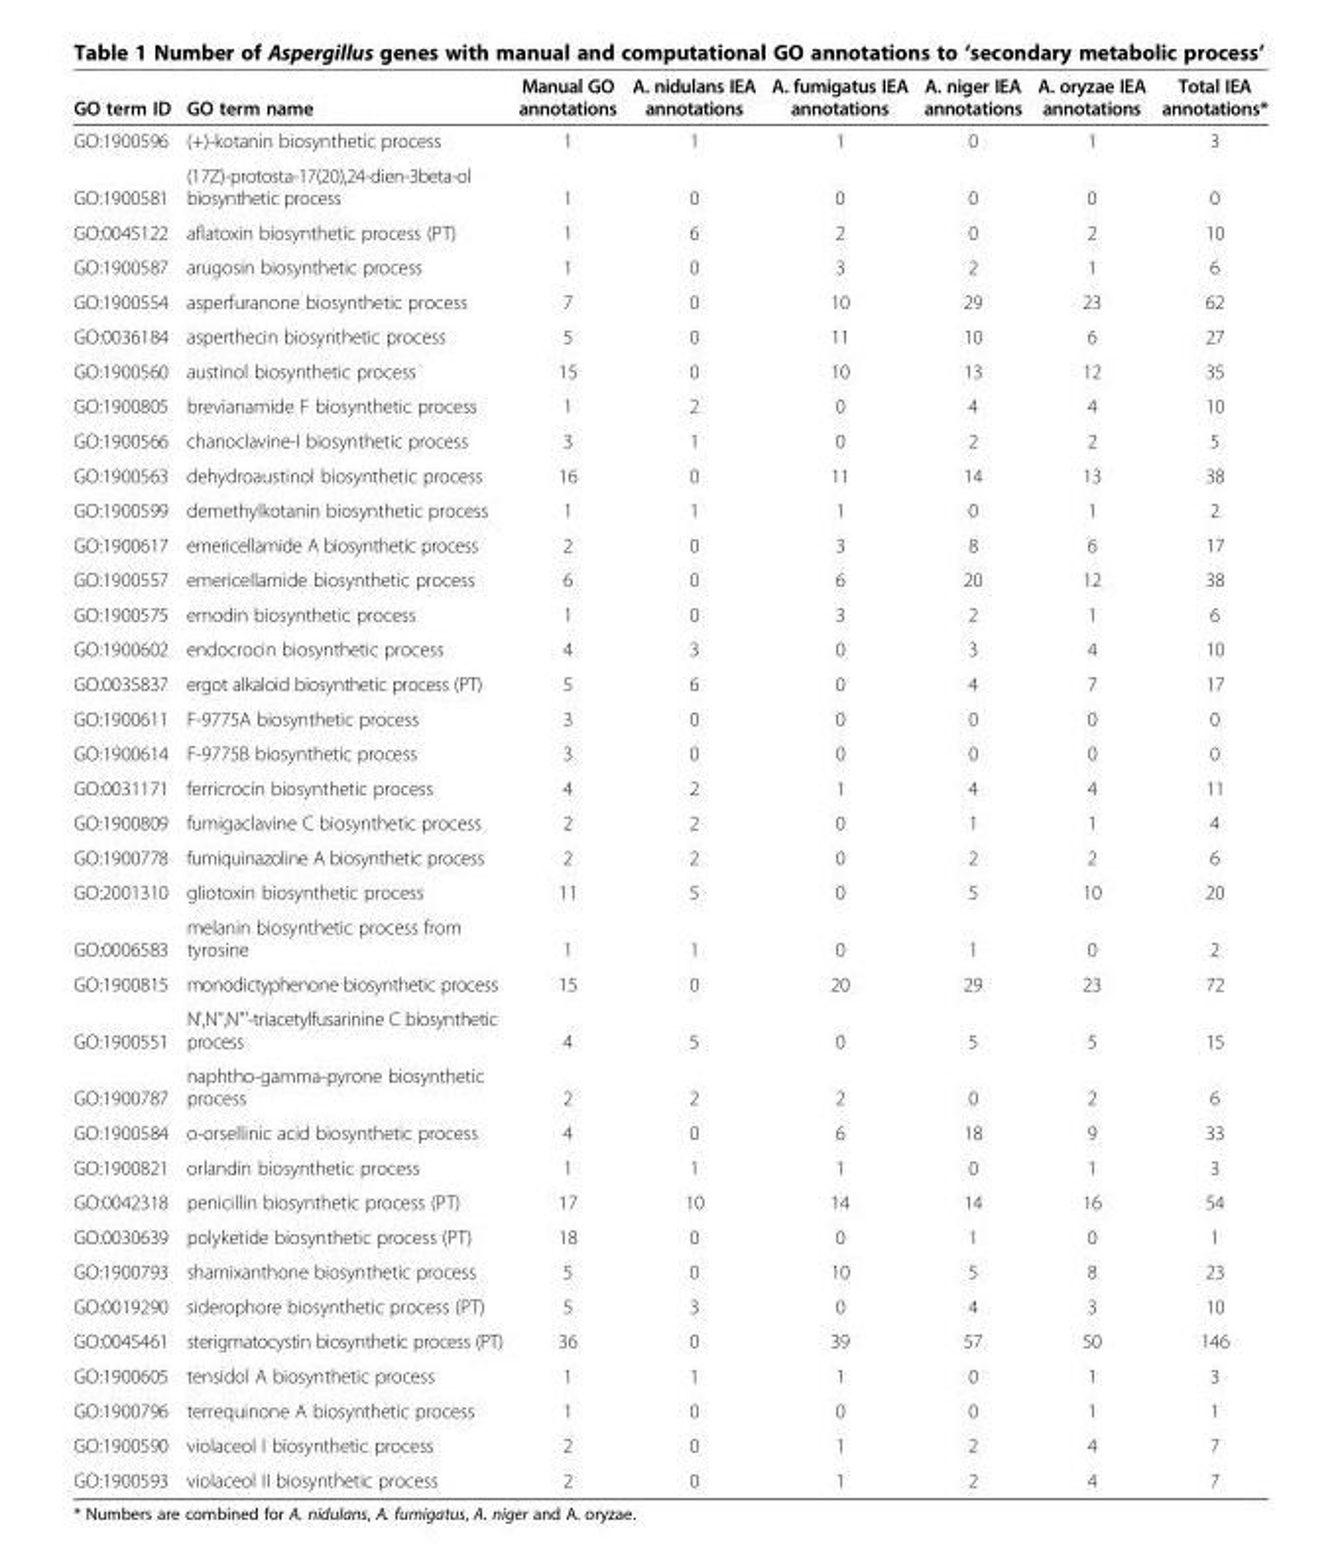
<table><thead><tr><td>GO term ID</td><td>GO term name</td><td>Manual GO annotations</td><td>A. nidulans IEA annotations</td><td>A. fumigatus IEA annotations</td><td>A. niger IEA annotations</td><td>A. oryzae IEA annotations</td><td>Total IEA annotations*</td></tr></thead><tbody><tr><td>GO:1900596</td><td>(+)-kotanin biosynthetic process</td><td>1</td><td>1</td><td>1</td><td>0</td><td>1</td><td>3</td></tr><tr><td>GO:1900581</td><td>(17Z)-protosta-17(20),24-dien-3beta-ol biosynthetic process</td><td>1</td><td>0</td><td>0</td><td>0</td><td>0</td><td>0</td></tr><tr><td>GO:0045122</td><td>aflatoxin biosynthetic process (PT)</td><td>1</td><td>6</td><td>2</td><td>0</td><td>2</td><td>10</td></tr><tr><td>GO:1900587</td><td>arugosin biosynthetic process</td><td>1</td><td>0</td><td>3</td><td>2</td><td>1</td><td>6</td></tr><tr><td>GO:1900554</td><td>asperfuranone biosynthetic process</td><td>7</td><td>0</td><td>10</td><td>29</td><td>23</td><td>62</td></tr><tr><td>GO:0036184</td><td>asperthecin biosynthetic process</td><td>5</td><td>0</td><td>11</td><td>10</td><td>6</td><td>27</td></tr><tr><td>GO:1900560</td><td>austinol biosynthetic process</td><td>15</td><td>0</td><td>10</td><td>13</td><td>12</td><td>35</td></tr><tr><td>GO:1900805</td><td>brevianamide F biosynthetic process</td><td>1</td><td>2</td><td>0</td><td>4</td><td>4</td><td>10</td></tr><tr><td>GO:1900566</td><td>chanoclavine-I biosynthetic process</td><td>3</td><td>1</td><td>0</td><td>2</td><td>2</td><td>5</td></tr><tr><td>GO:1900563</td><td>dehydroaustinol biosynthetic process</td><td>16</td><td>0</td><td>11</td><td>14</td><td>13</td><td>38</td></tr><tr><td>GO:1900599</td><td>demethylkotanin biosynthetic process</td><td>1</td><td>1</td><td>1</td><td>0</td><td>1</td><td>2</td></tr><tr><td>GO:1900617</td><td>emericellamide A biosynthetic process</td><td>2</td><td>0</td><td>3</td><td>8</td><td>6</td><td>17</td></tr><tr><td>GO:1900557</td><td>emericellamide biosynthetic process</td><td>6</td><td>0</td><td>6</td><td>20</td><td>12</td><td>38</td></tr><tr><td>GO:1900575</td><td>emodin biosynthetic process</td><td>1</td><td>0</td><td>3</td><td>2</td><td>1</td><td>6</td></tr><tr><td>GO:1900602</td><td>endocrocin biosynthetic process</td><td>4</td><td>3</td><td>0</td><td>3</td><td>4</td><td>10</td></tr><tr><td>GO:0035837</td><td>ergot alkaloid biosynthetic process (PT)</td><td>5</td><td>6</td><td>0</td><td>4</td><td>7</td><td>17</td></tr><tr><td>GO:1900611</td><td>F-9775A biosynthetic process</td><td>3</td><td>0</td><td>0</td><td>0</td><td>0</td><td>0</td></tr><tr><td>GO:1900614</td><td>F-9775B biosynthetic process</td><td>3</td><td>0</td><td>0</td><td>0</td><td>0</td><td>0</td></tr><tr><td>GO:0031171</td><td>ferricrocin biosynthetic process</td><td>4</td><td>2</td><td>1</td><td>4</td><td>4</td><td>11</td></tr><tr><td>GO:1900809</td><td>fumigaclavine C biosynthetic process</td><td>2</td><td>2</td><td>0</td><td>1</td><td>1</td><td>4</td></tr><tr><td>GO:1900778</td><td>fumiquinazoline A biosynthetic process</td><td>2</td><td>2</td><td>0</td><td>2</td><td>2</td><td>6</td></tr><tr><td>GO:2001310</td><td>gliotoxin biosynthetic process</td><td>11</td><td>5</td><td>0</td><td>5</td><td>10</td><td>20</td></tr><tr><td>GO:0006583</td><td>melanin biosynthetic process from tyrosine</td><td>1</td><td>1</td><td>0</td><td>1</td><td>0</td><td>2</td></tr><tr><td>GO:1900815</td><td>monodictyphenone biosynthetic process</td><td>15</td><td>0</td><td>20</td><td>29</td><td>23</td><td>72</td></tr><tr><td>GO:1900551</td><td>N&#x27;,N&#x27;&#x27;,N&#x27;&#x27;&#x27;-triacetylfusarinine C biosynthetic process</td><td>4</td><td>5</td><td>0</td><td>5</td><td>5</td><td>15</td></tr><tr><td>GO:1900787</td><td>naphtho-gamma-pyrone biosynthetic process</td><td>2</td><td>2</td><td>2</td><td>0</td><td>2</td><td>6</td></tr><tr><td>GO:1900584</td><td>o-orsellinic acid biosynthetic process</td><td>4</td><td>0</td><td>6</td><td>18</td><td>9</td><td>33</td></tr><tr><td>GO:1900821</td><td>orlandin biosynthetic process</td><td>1</td><td>1</td><td>1</td><td>0</td><td>1</td><td>3</td></tr><tr><td>GO:0042318</td><td>penicillin biosynthetic process (PT)</td><td>17</td><td>10</td><td>14</td><td>14</td><td>16</td><td>54</td></tr><tr><td>GO:0030639</td><td>polyketide biosynthetic process (PT)</td><td>18</td><td>0</td><td>0</td><td>1</td><td>0</td><td>1</td></tr><tr><td>GO:1900793</td><td>shamixanthone biosynthetic process</td><td>5</td><td>0</td><td>10</td><td>5</td><td>8</td><td>23</td></tr><tr><td>GO:0019290</td><td>siderophore biosynthetic process (PT)</td><td>5</td><td>3</td><td>0</td><td>4</td><td>3</td><td>10</td></tr><tr><td>GO:0045461</td><td>sterigmatocystin biosynthetic process (PT)</td><td>36</td><td>0</td><td>39</td><td>57</td><td>50</td><td>146</td></tr><tr><td>GO:1900605</td><td>tensidol A biosynthetic process</td><td>1</td><td>1</td><td>1</td><td>0</td><td>1</td><td>3</td></tr><tr><td>GO:1900796</td><td>terrequinone A biosynthetic process</td><td>1</td><td>0</td><td>0</td><td>0</td><td>1</td><td>1</td></tr><tr><td>GO:1900590</td><td>violaceol I biosynthetic process</td><td>2</td><td>0</td><td>1</td><td>2</td><td>4</td><td>7</td></tr><tr><td>GO:1900593</td><td>violaceol II biosynthetic process</td><td>2</td><td>0</td><td>1</td><td>2</td><td>4</td><td>7</td></tr></tbody></table>